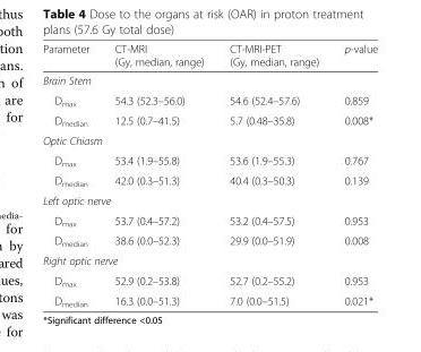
<table><thead><tr><td>Parameter</td><td>CT-MRI (Gy, median, range)</td><td>CT-MRI-PET (Gy, median, range)</td><td>p-value</td></tr></thead><tbody><tr><td colspan="4">Brain Stem</td></tr><tr><td>D<sub>max</sub></td><td>54.3 (52.3–56.0)</td><td>54.6 (52.4–57.6)</td><td>0.859</td></tr><tr><td>D<sub>median</sub></td><td>12.5 (0.7–41.5)</td><td>5.7 (0.48–35.8)</td><td>0.008*</td></tr><tr><td colspan="4">Optic Chiasm</td></tr><tr><td>D<sub>max</sub></td><td>53.4 (1.9–55.8)</td><td>53.6 (1.9–55.3)</td><td>0.767</td></tr><tr><td>D<sub>median</sub></td><td>42.0 (0.3–51.3)</td><td>40.4 (0.3–50.3)</td><td>0.139</td></tr><tr><td colspan="4">Left optic nerve</td></tr><tr><td>D<sub>max</sub></td><td>53.7 (0.4–57.2)</td><td>53.2 (0.4–57.5)</td><td>0.953</td></tr><tr><td>D<sub>median</sub></td><td>38.6 (0.0–52.3)</td><td>29.9 (0.0–51.9)</td><td>0.008</td></tr><tr><td colspan="4">Right optic nerve</td></tr><tr><td>D<sub>max</sub></td><td>52.9 (0.2–53.8)</td><td>52.7 (0.2–55.2)</td><td>0.953</td></tr><tr><td>D<sub>median</sub></td><td>16.3 (0.0–51.3)</td><td>7.0 (0.0–51.5)</td><td>0.021*</td></tr></tbody></table>